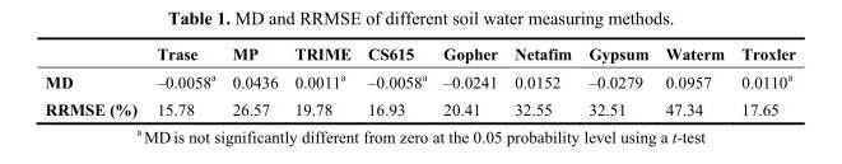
<table><thead><tr><td></td><td>Trase</td><td>MP</td><td>TRIME</td><td>CS615</td><td>Gopher</td><td>Netafim</td><td>Gypsum</td><td>Waterm</td><td>Troxler</td></tr></thead><tbody><tr><td>MD</td><td>–0.0058<sup>a</sup></td><td>0.0436</td><td>0.0011<sup>a</sup></td><td>–0.0058<sup>a</sup></td><td>–0.0241</td><td>0.0152</td><td>–0.0279</td><td>0.0957</td><td>0.0110<sup>a</sup></td></tr><tr><td>RRMSE (%)</td><td>15.78</td><td>26.57</td><td>19.78</td><td>16.93</td><td>20.41</td><td>32.55</td><td>32.51</td><td>47.34</td><td>17.65</td></tr></tbody></table>